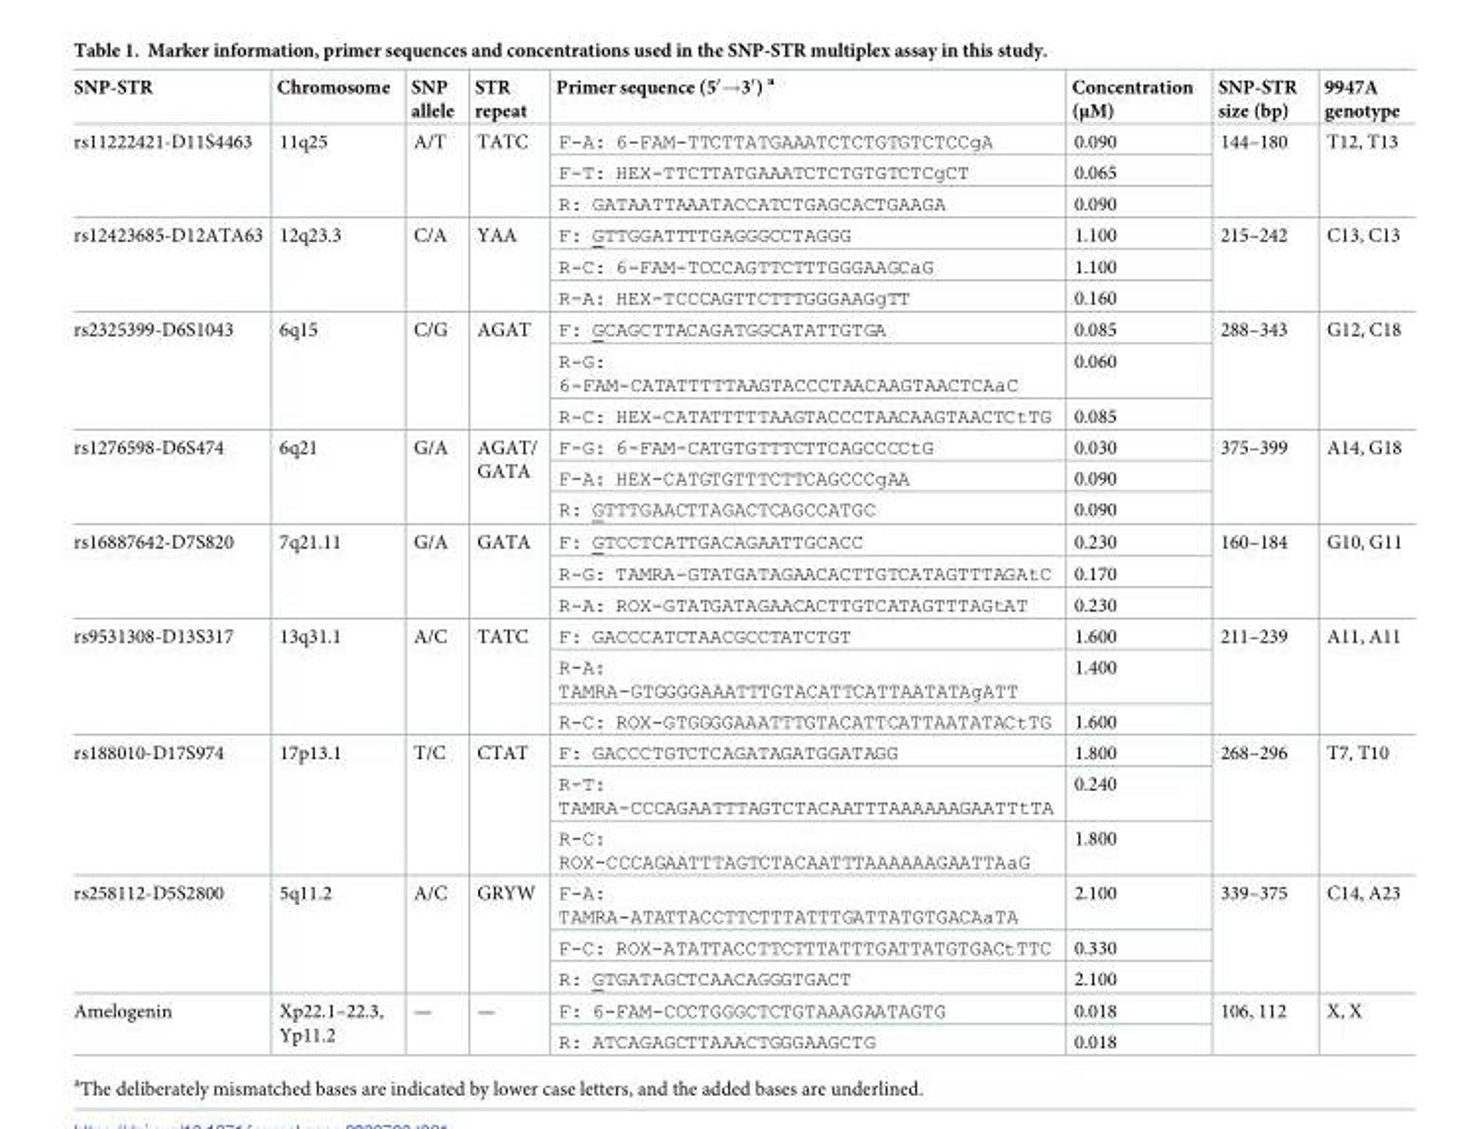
<table><thead><tr><td>SNP-STR</td><td>Chromosome</td><td>SNP allele</td><td>STR repeat</td><td>Primer sequence (5′→3′) <sup>a</sup></td><td>Concentration (μM)</td><td>SNP-STR size (bp)</td><td>9947A genotype</td></tr></thead><tbody><tr><td rowspan="3">rs11222421-D11S4463</td><td rowspan="3">11q25</td><td rowspan="3">A/T</td><td rowspan="3">TATC</td><td>F-A: 6-FAM-TTCTTATGAAATCTCTGTGTCTCCgA</td><td>0.090</td><td rowspan="3">144–180</td><td rowspan="3">T12, T13</td></tr><tr><td>F-T: HEX-TTCTTATGAAATCTCTGTGTCTCgCT</td><td>0.065</td></tr><tr><td>R: GATAATTAAATACCATCTGAGCACTGAAGA</td><td>0.090</td></tr><tr><td rowspan="3">rs12423685-D12ATA63</td><td rowspan="3">12q23.3</td><td rowspan="3">C/A</td><td rowspan="3">YAA</td><td>F: GTTGGATTTTGAGGGCCTAGGG</td><td>1.100</td><td rowspan="3">215–242</td><td rowspan="3">C13, C13</td></tr><tr><td>R-C: 6-FAM-TCCCAGTTCTTTGGGAAGCaG</td><td>1.100</td></tr><tr><td>R-A: HEX-TCCCAGTTCTTTGGGAAGgTT</td><td>0.160</td></tr><tr><td rowspan="3">rs2325399-D6S1043</td><td rowspan="3">6q15</td><td rowspan="3">C/G</td><td rowspan="3">AGAT</td><td>F: GCAGCTTACAGATGGCATATTGTGA</td><td>0.085</td><td rowspan="3">288–343</td><td rowspan="3">G12, C18</td></tr><tr><td>R-G: 6-FAM-CATATTTTTAAGTACCCTAACAAGTAACTCAaC</td><td>0.060</td></tr><tr><td>R-C: HEX-CATATTTTTAAGTACCCTAACAAGTAACTCtTG</td><td>0.085</td></tr><tr><td rowspan="3">rs1276598-D6S474</td><td rowspan="3">6q21</td><td rowspan="3">G/A</td><td rowspan="3">AGAT/ GATA</td><td>F-G: 6-FAM-CATGTGTTTCTTCAGCCCCtG</td><td>0.030</td><td rowspan="3">375–399</td><td rowspan="3">A14, G18</td></tr><tr><td>F-A: HEX-CATGTGTTTCTTCAGCCCgAA</td><td>0.090</td></tr><tr><td>R: GTTTGAACTTAGACTCAGCCATGC</td><td>0.090</td></tr><tr><td rowspan="3">rs16887642-D7S820</td><td rowspan="3">7q21.11</td><td rowspan="3">G/A</td><td rowspan="3">GATA</td><td>F: GTCCTCATTGACAGAATTGCACC</td><td>0.230</td><td rowspan="3">160–184</td><td rowspan="3">G10, G11</td></tr><tr><td>R-G: TAMRA-GTATGATAGAACACTTGTCATAGTTTAGAtC</td><td>0.170</td></tr><tr><td>R-A: ROX-GTATGATAGAACACTTGTCATAGTTTAGtAT</td><td>0.230</td></tr><tr><td rowspan="3">rs9531308-D13S317</td><td rowspan="3">13q31.1</td><td rowspan="3">A/C</td><td rowspan="3">TATC</td><td>F: GACCCATCTAACGCCTATCTGT</td><td>1.600</td><td rowspan="3">211–239</td><td rowspan="3">A11, A11</td></tr><tr><td>R-A: TAMRA-GTGGGGAAATTTGTACATTCATTAATATAgATT</td><td>1.400</td></tr><tr><td>R-C: ROX-GTGGGGAAATTTGTACATTCATTAATATACtTG</td><td>1.600</td></tr><tr><td rowspan="3">rs188010-D17S974</td><td rowspan="3">17p13.1</td><td rowspan="3">T/C</td><td rowspan="3">CTAT</td><td>F: GACCCTGTCTCAGATAGATGGATAGG</td><td>1.800</td><td rowspan="3">268–296</td><td rowspan="3">T7, T10</td></tr><tr><td>R-T: TAMRA-CCCAGAATTTAGTCTACAATTTAAAAAAGAATTtTA</td><td>0.240</td></tr><tr><td>R-C: ROX-CCCAGAATTTAGTCTACAATTTAAAAAAGAATTAaG</td><td>1.800</td></tr><tr><td rowspan="3">rs258112-D5S2800</td><td rowspan="3">5q11.2</td><td rowspan="3">A/C</td><td rowspan="3">GRYW</td><td>F-A: TAMRA-ATATTACCTTCTTTATTTGATTATGTGACAaTA</td><td>2.100</td><td rowspan="3">339–375</td><td rowspan="3">C14, A23</td></tr><tr><td>F-C: ROX-ATATTACCTTCTTTATTTGATTATGTGACtTTC</td><td>0.330</td></tr><tr><td>R: GTGATAGCTCAACAGGGTGACT</td><td>2.100</td></tr><tr><td rowspan="2">Amelogenin</td><td rowspan="2">Xp22.1–22.3, Yp11.2</td><td rowspan="2">—</td><td rowspan="2">—</td><td>F: 6-FAM-CCCTGGGCTCTGTAAAGAATAGTG</td><td>0.018</td><td rowspan="2">106, 112</td><td rowspan="2">X, X</td></tr><tr><td>R: ATCAGAGCTTAAACTGGGAAGCTG</td><td>0.018</td></tr></tbody></table>